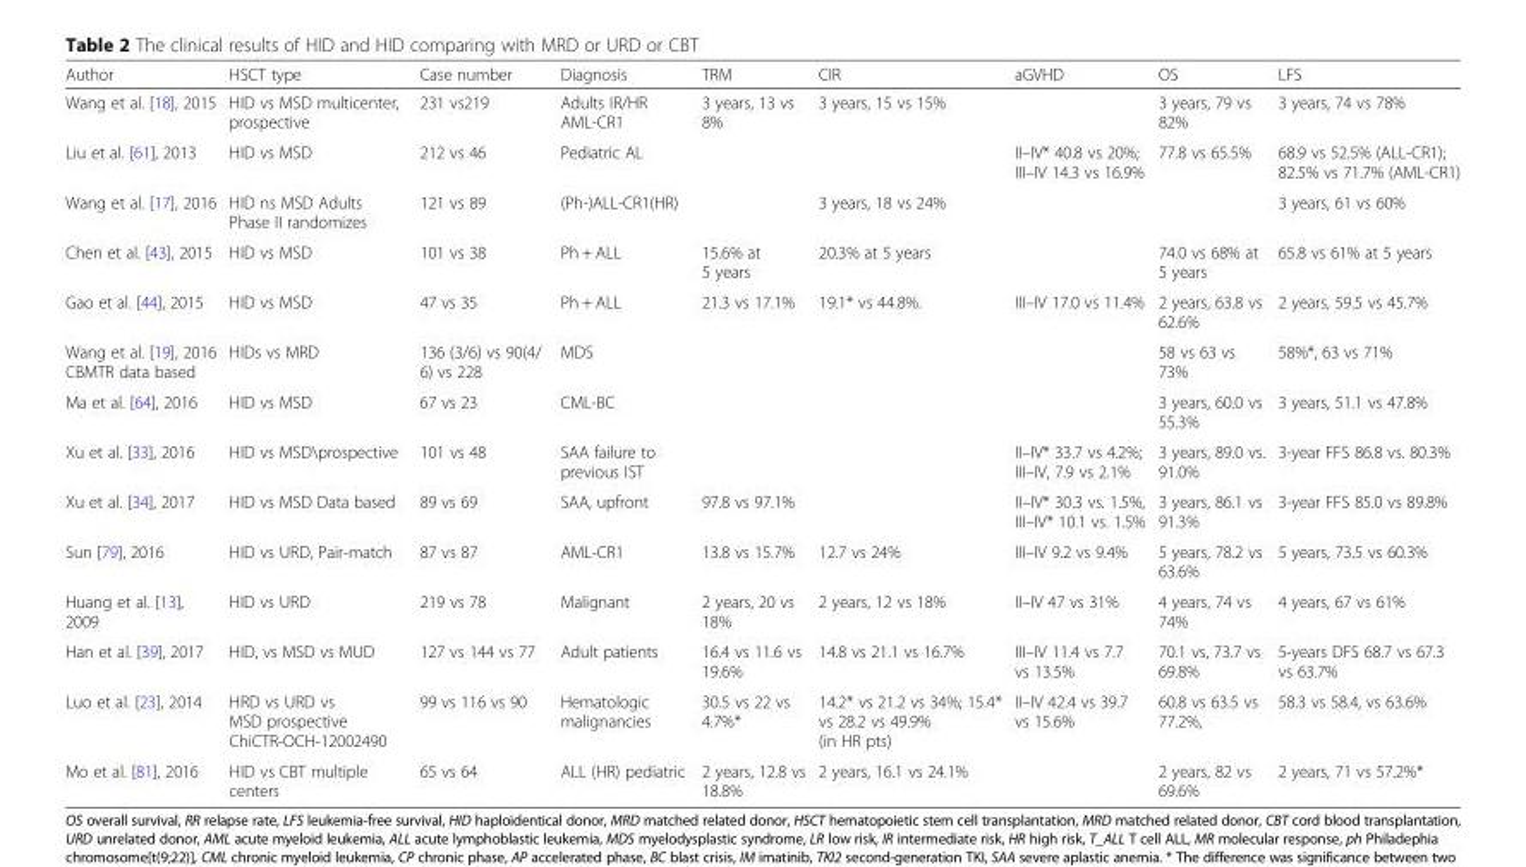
<table><thead><tr><td>Author</td><td>HSCT type</td><td>Case number</td><td>Diagnosis</td><td>TRM</td><td>CIR</td><td>aGVHD</td><td>OS</td><td>LFS</td></tr></thead><tbody><tr><td>Wang et al. [18], 2015</td><td>HID vs MSD multicenter, prospective</td><td>231 vs219</td><td>Adults IR/HR AML-CR1</td><td>3 years, 13 vs 8%</td><td>3 years, 15 vs 15%</td><td></td><td>3 years, 79 vs 82%</td><td>3 years, 74 vs 78%</td></tr><tr><td>Liu et al. [61], 2013</td><td>HID vs MSD</td><td>212 vs 46</td><td>Pediatric AL</td><td></td><td></td><td>II–IV* 40.8 vs 20%; III–IV 14.3 vs 16.9%</td><td>77.8 vs 65.5%</td><td>68.9 vs 52.5% (ALL-CR1); 82.5% vs 71.7% (AML-CR1)</td></tr><tr><td>Wang et al. [17], 2016</td><td>HID ns MSD Adults Phase II randomizes</td><td>121 vs 89</td><td>(Ph-)ALL-CR1(HR)</td><td></td><td>3 years, 18 vs 24%</td><td></td><td></td><td>3 years, 61 vs 60%</td></tr><tr><td>Chen et al. [43], 2015</td><td>HID vs MSD</td><td>101 vs 38</td><td>Ph + ALL</td><td>15.6% at 5 years</td><td>20.3% at 5 years</td><td></td><td>74.0 vs 68% at 5 years</td><td>65.8 vs 61% at 5 years</td></tr><tr><td>Gao et al. [44], 2015</td><td>HID vs MSD</td><td>47 vs 35</td><td>Ph + ALL</td><td>21.3 vs 17.1%</td><td>19.1* vs 44.8%.</td><td>III–IV 17.0 vs 11.4%</td><td>2 years, 63.8 vs 62.6%</td><td>2 years, 59.5 vs 45.7%</td></tr><tr><td>Wang et al. [19], 2016 CBMTR data based</td><td>HIDs vs MRD</td><td>136 (3/6) vs 90(4/ 6) vs 228</td><td>MDS</td><td></td><td></td><td></td><td>58 vs 63 vs 73%</td><td>58%*, 63 vs 71%</td></tr><tr><td>Ma et al. [64], 2016</td><td>HID vs MSD</td><td>67 vs 23</td><td>CML-BC</td><td></td><td></td><td></td><td>3 years, 60.0 vs 55.3%</td><td>3 years, 51.1 vs 47.8%</td></tr><tr><td>Xu et al. [33], 2016</td><td>HID vs MSD\prospective</td><td>101 vs 48</td><td>SAA failure to previous IST</td><td></td><td></td><td>II–IV* 33.7 vs 4.2%; III–IV, 7.9 vs 2.1%</td><td>3 years, 89.0 vs. 91.0%</td><td>3-year FFS 86.8 vs. 80.3%</td></tr><tr><td>Xu et al. [34], 2017</td><td>HID vs MSD Data based</td><td>89 vs 69</td><td>SAA, upfront</td><td>97.8 vs 97.1%</td><td></td><td>II–IV* 30.3 vs. 1.5%, III–IV* 10.1 vs. 1.5%</td><td>3 years, 86.1 vs 91.3%</td><td>3-year FFS 85.0 vs 89.8%</td></tr><tr><td>Sun [79], 2016</td><td>HID vs URD, Pair-match</td><td>87 vs 87</td><td>AML-CR1</td><td>13.8 vs 15.7%</td><td>12.7 vs 24%</td><td>III–IV 9.2 vs 9.4%</td><td>5 years, 78.2 vs 63.6%</td><td>5 years, 73.5 vs 60.3%</td></tr><tr><td>Huang et al. [13], 2009</td><td>HID vs URD</td><td>219 vs 78</td><td>Malignant</td><td>2 years, 20 vs 18%</td><td>2 years, 12 vs 18%</td><td>II–IV 47 vs 31%</td><td>4 years, 74 vs 74%</td><td>4 years, 67 vs 61%</td></tr><tr><td>Han et al. [39], 2017</td><td>HID, vs MSD vs MUD</td><td>127 vs 144 vs 77</td><td>Adult patients</td><td>16.4 vs 11.6 vs 19.6%</td><td>14.8 vs 21.1 vs 16.7%</td><td>III–IV 11.4 vs 7.7 vs 13.5%</td><td>70.1 vs, 73.7 vs 69.8%</td><td>5-years DFS 68.7 vs 67.3 vs 63.7%</td></tr><tr><td>Luo et al. [23], 2014</td><td>HRD vs URD vs MSD prospective ChiCTR-OCH-12002490</td><td>99 vs 116 vs 90</td><td>Hematologic malignancies</td><td>30.5 vs 22 vs 4.7%*</td><td>14.2* vs 21.2 vs 34%; 15.4* vs 28.2 vs 49.9% (in HR pts)</td><td>II–IV 42.4 vs 39.7 vs 15.6%</td><td>60.8 vs 63.5 vs 77.2%,</td><td>58.3 vs 58.4, vs 63.6%</td></tr><tr><td>Mo et al. [81], 2016</td><td>HID vs CBT multiple centers</td><td>65 vs 64</td><td>ALL (HR) pediatric</td><td>2 years, 12.8 vs 18.8%</td><td>2 years, 16.1 vs 24.1%</td><td></td><td>2 years, 82 vs 69.6%</td><td>2 years, 71 vs 57.2%*</td></tr></tbody></table>